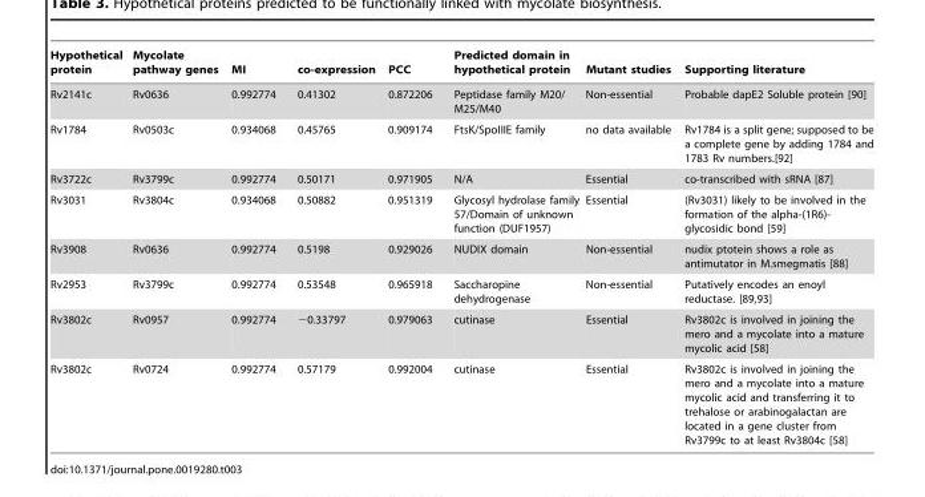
<table><thead><tr><td>Hypothetical protein</td><td>Mycolate pathway genes</td><td>MI</td><td>co-expression</td><td>PCC</td><td>Predicted domain in hypothetical protein</td><td>Mutant studies</td><td>Supporting literature</td></tr></thead><tbody><tr><td>Rv2141c</td><td>Rv0636</td><td>0.992774</td><td>0.41302</td><td>0.872206</td><td>Peptidase family M20/ M25/M40</td><td>Non-essential</td><td>Probable dapE2 Soluble protein [90]</td></tr><tr><td>Rv1784</td><td>Rv0503c</td><td>0.934068</td><td>0.45765</td><td>0.909174</td><td>FtsK/SpoIIIE family</td><td>no data available</td><td>Rv1784 is a split gene; supposed to be a complete gene by adding 1784 and 1783 Rv numbers.[92]</td></tr><tr><td>Rv3722c</td><td>Rv3799c</td><td>0.992774</td><td>0.50171</td><td>0.971905</td><td>N/A</td><td>Essential</td><td>co-transcribed with sRNA [87]</td></tr><tr><td>Rv3031</td><td>Rv3804c</td><td>0.934068</td><td>0.50882</td><td>0.951319</td><td>Glycosyl hydrolase family 57/Domain of unknown function (DUF1957)</td><td>Essential</td><td>(Rv3031) likely to be involved in the formation of the alpha-(1R6)- glycosidic bond [59]</td></tr><tr><td>Rv3908</td><td>Rv0636</td><td>0.992774</td><td>0.5198</td><td>0.929026</td><td>NUDIX domain</td><td>Non-essential</td><td>nudix ptotein shows a role as antimutator in M.smegmatis [88]</td></tr><tr><td>Rv2953</td><td>Rv3799c</td><td>0.992774</td><td>0.53548</td><td>0.965918</td><td>Saccharopine dehydrogenase</td><td>Non-essential</td><td>Putatively encodes an enoyl reductase. [89,93]</td></tr><tr><td>Rv3802c</td><td>Rv0957</td><td>0.992774</td><td>−0.33797</td><td>0.979063</td><td>cutinase</td><td>Essential</td><td>Rv3802c is involved in joining the mero and a mycolate into a mature mycolic acid [58]</td></tr><tr><td>Rv3802c</td><td>Rv0724</td><td>0.992774</td><td>0.57179</td><td>0.992004</td><td>cutinase</td><td>Essential</td><td>Rv3802c is involved in joining the mero and a mycolate into a mature mycolic acid and transferring it to trehalose or arabinogalactan are located in a gene cluster from Rv3799c to at least Rv3804c [58]</td></tr></tbody></table>